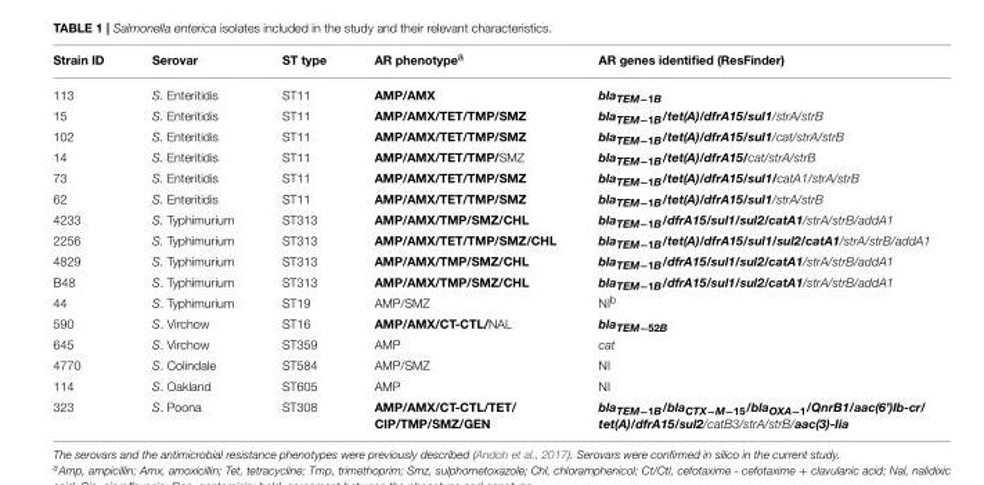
<table><thead><tr><td>Strain ID</td><td>Serovar</td><td>ST type</td><td>AR phenotype<sup>a</sup></td><td>AR genes identified (ResFinder)</td></tr></thead><tbody><tr><td>113</td><td>S. Enteritidis</td><td>ST11</td><td>AMP/AMX</td><td>blaTEM−1B</td></tr><tr><td>15</td><td>S. Enteritidis</td><td>ST11</td><td>AMP/AMX/TET/TMP/SMZ</td><td>blaTEM−1B/tet(A)/dfrA15/sul1/strA/strB</td></tr><tr><td>102</td><td>S. Enteritidis</td><td>ST11</td><td>AMP/AMX/TET/TMP/SMZ</td><td>blaTEM−1B/tet(A)/dfrA15/sul1/cat/strA/strB</td></tr><tr><td>14</td><td>S. Enteritidis</td><td>ST11</td><td>AMP/AMX/TET/TMP/SMZ</td><td>blaTEM−1B/tet(A)/dfrA15/cat/strA/strB</td></tr><tr><td>73</td><td>S. Enteritidis</td><td>ST11</td><td>AMP/AMX/TET/TMP/SMZ</td><td>blaTEM−1B/tet(A)/dfrA15/sul1/catA1/strA/strB</td></tr><tr><td>62</td><td>S. Enteritidis</td><td>ST11</td><td>AMP/AMX/TET/TMP/SMZ</td><td>blaTEM−1B/tet(A)/dfrA15/sul1/strA/strB</td></tr><tr><td>4233</td><td>S. Typhimurium</td><td>ST313</td><td>AMP/AMX/TMP/SMZ/CHL</td><td>blaTEM−1B/dfrA15/sul1/sul2/catA1/strA/strB/addA1</td></tr><tr><td>2256</td><td>S. Typhimurium</td><td>ST313</td><td>AMP/AMX/TET/TMP/SMZ/CHL</td><td>blaTEM−1B/tet(A)/dfrA15/sul1/sul2/catA1/strA/strB/addA1</td></tr><tr><td>4829</td><td>S. Typhimurium</td><td>ST313</td><td>AMP/AMX/TMP/SMZ/CHL</td><td>blaTEM−1B/dfrA15/sul1/sul2/catA1/strA/strB/addA1</td></tr><tr><td>B48</td><td>S. Typhimurium</td><td>ST313</td><td>AMP/AMX/TMP/SMZ/CHL</td><td>blaTEM−1B/dfrA15/sul1/sul2/catA1/strA/strB/addA1</td></tr><tr><td>44</td><td>S. Typhimurium</td><td>ST19</td><td>AMP/SMZ</td><td>NI<sup>b</sup></td></tr><tr><td>590</td><td>S. Virchow</td><td>ST16</td><td>AMP/AMX/CT-CTL/NAL</td><td>blaTEM−52B</td></tr><tr><td>645</td><td>S. Virchow</td><td>ST359</td><td>AMP</td><td>cat</td></tr><tr><td>4770</td><td>S. Colindale</td><td>ST584</td><td>AMP/SMZ</td><td>NI</td></tr><tr><td>114</td><td>S. Oakland</td><td>ST605</td><td>AMP</td><td>NI</td></tr><tr><td>323</td><td>S. Poona</td><td>ST308</td><td>AMP/AMX/CT-CTL/TET/ CIP/TMP/SMZ/GEN</td><td>blaTEM−1B/blaCTX−M−15/blaOXA−1/QnrB1/aac(6’)Ib-cr/ tet(A)/dfrA15/sul2/catB3/strA/strB/aac(3)-Iia</td></tr></tbody></table>